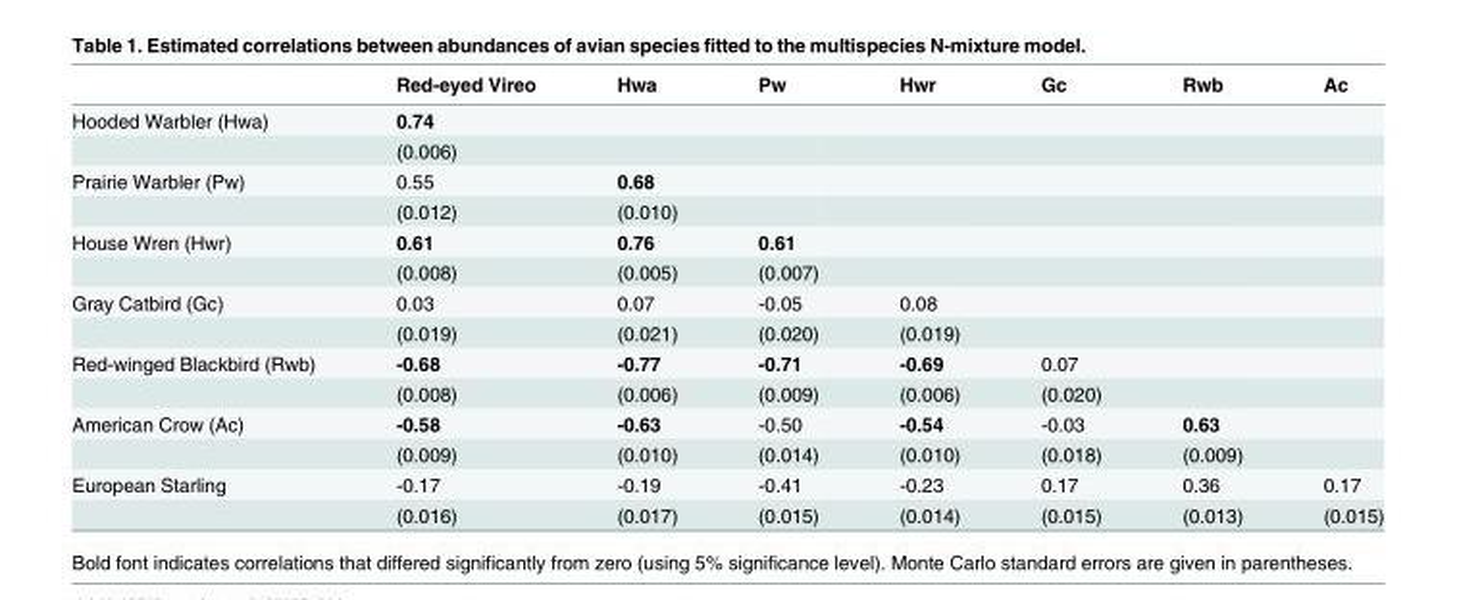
<table><thead><tr><td></td><td>Red-eyed Vireo</td><td>Hwa</td><td>Pw</td><td>Hwr</td><td>Gc</td><td>Rwb</td><td>Ac</td></tr></thead><tbody><tr><td rowspan="2">Hooded Warbler (Hwa)</td><td>0.74</td><td></td><td></td><td></td><td></td><td></td><td></td></tr><tr><td>(0.006)</td><td></td><td></td><td></td><td></td><td></td><td></td></tr><tr><td rowspan="2">Prairie Warbler (Pw)</td><td>0.55</td><td>0.68</td><td></td><td></td><td></td><td></td><td></td></tr><tr><td>(0.012)</td><td>(0.010)</td><td></td><td></td><td></td><td></td><td></td></tr><tr><td rowspan="2">House Wren (Hwr)</td><td>0.61</td><td>0.76</td><td>0.61</td><td></td><td></td><td></td><td></td></tr><tr><td>(0.008)</td><td>(0.005)</td><td>(0.007)</td><td></td><td></td><td></td><td></td></tr><tr><td rowspan="2">Gray Catbird (Gc)</td><td>0.03</td><td>0.07</td><td>-0.05</td><td>0.08</td><td></td><td></td><td></td></tr><tr><td>(0.019)</td><td>(0.021)</td><td>(0.020)</td><td>(0.019)</td><td></td><td></td><td></td></tr><tr><td rowspan="2">Red-winged Blackbird (Rwb)</td><td>-0.68</td><td>-0.77</td><td>-0.71</td><td>-0.69</td><td>0.07</td><td></td><td></td></tr><tr><td>(0.008)</td><td>(0.006)</td><td>(0.009)</td><td>(0.006)</td><td>(0.020)</td><td></td><td></td></tr><tr><td rowspan="2">American Crow (Ac)</td><td>-0.58</td><td>-0.63</td><td>-0.50</td><td>-0.54</td><td>-0.03</td><td>0.63</td><td></td></tr><tr><td>(0.009)</td><td>(0.010)</td><td>(0.014)</td><td>(0.010)</td><td>(0.018)</td><td>(0.009)</td><td></td></tr><tr><td rowspan="2">European Starling</td><td>-0.17</td><td>-0.19</td><td>-0.41</td><td>-0.23</td><td>0.17</td><td>0.36</td><td>0.17</td></tr><tr><td>(0.016)</td><td>(0.017)</td><td>(0.015)</td><td>(0.014)</td><td>(0.015)</td><td>(0.013)</td><td>(0.015)</td></tr></tbody></table>